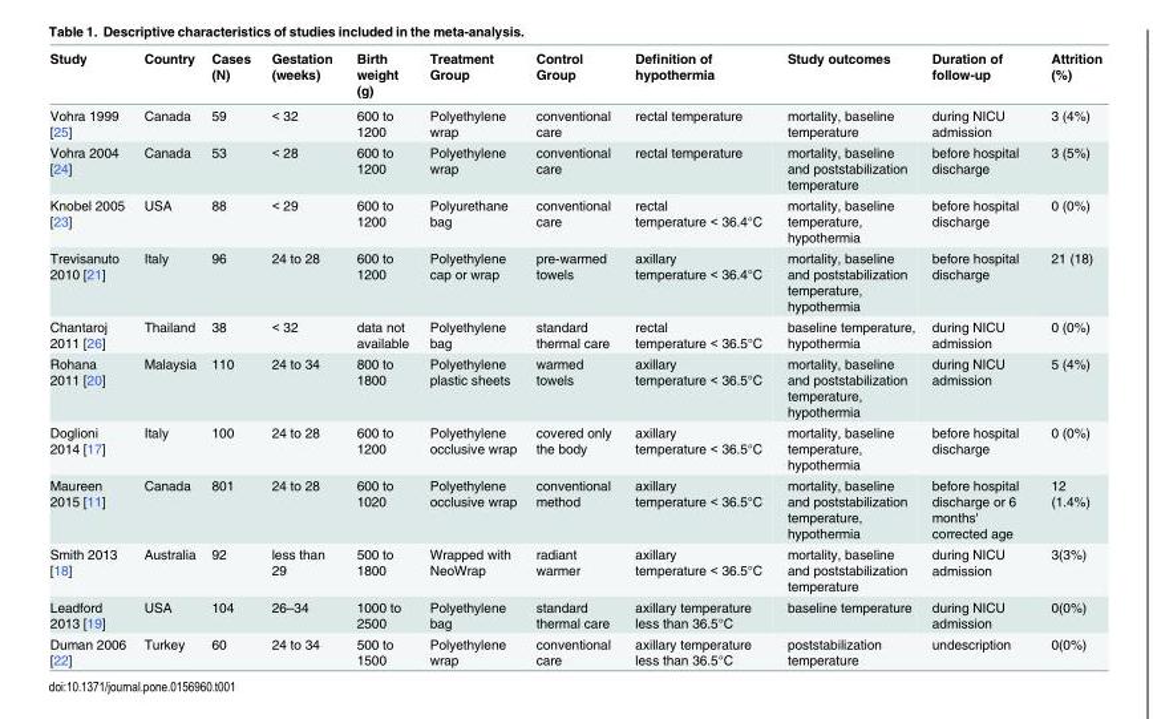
<table><thead><tr><td>Study</td><td>Country</td><td>Cases (N)</td><td>Gestation (weeks)</td><td>Birth weight (g)</td><td>Treatment Group</td><td>Control Group</td><td>Definition of hypothermia</td><td>Study outcomes</td><td>Duration of follow-up</td><td>Attrition (%)</td></tr></thead><tbody><tr><td>Vohra 1999 [25]</td><td>Canada</td><td>59</td><td>&lt; 32</td><td>600 to 1200</td><td>Polyethylene wrap</td><td>conventional care</td><td>rectal temperature</td><td>mortality, baseline temperature</td><td>during NICU admission</td><td>3 (4%)</td></tr><tr><td>Vohra 2004 [24]</td><td>Canada</td><td>53</td><td>&lt; 28</td><td>600 to 1200</td><td>Polyethylene wrap</td><td>conventional care</td><td>rectal temperature</td><td>mortality, baseline and poststabilization temperature</td><td>before hospital discharge</td><td>3 (5%)</td></tr><tr><td>Knobel 2005 [23]</td><td>USA</td><td>88</td><td>&lt; 29</td><td>600 to 1200</td><td>Polyurethane bag</td><td>conventional care</td><td>rectal temperature &lt; 36.4°C</td><td>mortality, baseline temperature, hypothermia</td><td>before hospital discharge</td><td>0 (0%)</td></tr><tr><td>Trevisanuto 2010 [21]</td><td>Italy</td><td>96</td><td>24 to 28</td><td>600 to 1200</td><td>Polyethylene cap or wrap</td><td>pre-warmed towels</td><td>axillary temperature &lt; 36.4°C</td><td>mortality, baseline and poststabilization temperature, hypothermia</td><td>before hospital discharge</td><td>21 (18)</td></tr><tr><td>Chantaroj 2011 [26]</td><td>Thailand</td><td>38</td><td>&lt; 32</td><td>data not available</td><td>Polyethylene bag</td><td>standard thermal care</td><td>rectal temperature &lt; 36.5°C</td><td>baseline temperature, hypothermia</td><td>during NICU admission</td><td>0 (0%)</td></tr><tr><td>Rohana 2011 [20]</td><td>Malaysia</td><td>110</td><td>24 to 34</td><td>800 to 1800</td><td>Polyethylene plastic sheets</td><td>warmed towels</td><td>axillary temperature &lt; 36.5°C</td><td>mortality, baseline and poststabilization temperature, hypothermia</td><td>during NICU admission</td><td>5 (4%)</td></tr><tr><td>Doglioni 2014 [17]</td><td>Italy</td><td>100</td><td>24 to 28</td><td>600 to 1200</td><td>Polyethylene occlusive wrap</td><td>covered only the body</td><td>axillary temperature &lt; 36.5°C</td><td>mortality, baseline temperature, hypothermia</td><td>before hospital discharge</td><td>0 (0%)</td></tr><tr><td>Maureen 2015 [11]</td><td>Canada</td><td>801</td><td>24 to 28</td><td>600 to 1020</td><td>Polyethylene occlusive wrap</td><td>conventional method</td><td>axillary temperature &lt; 36.5°C</td><td>mortality, baseline and poststabilization temperature, hypothermia</td><td>before hospital discharge or 6 months&#x27; corrected age</td><td>12 (1.4%)</td></tr><tr><td>Smith 2013 [18]</td><td>Australia</td><td>92</td><td>less than 29</td><td>500 to 1800</td><td>Wrapped with NeoWrap</td><td>radiant warmer</td><td>axillary temperature &lt; 36.5°C</td><td>mortality, baseline and poststabilization temperature</td><td>during NICU admission</td><td>3(3%)</td></tr><tr><td>Leadford 2013 [19]</td><td>USA</td><td>104</td><td>26–34</td><td>1000 to 2500</td><td>Polyethylene bag</td><td>standard thermal care</td><td>axillary temperature less than 36.5°C</td><td>baseline temperature</td><td>during NICU admission</td><td>0(0%)</td></tr><tr><td>Duman 2006 [22]</td><td>Turkey</td><td>60</td><td>24 to 34</td><td>500 to 1500</td><td>Polyethylene wrap</td><td>conventional care</td><td>axillary temperature less than 36.5°C</td><td>poststabilization temperature</td><td>undescription</td><td>0(0%)</td></tr></tbody></table>